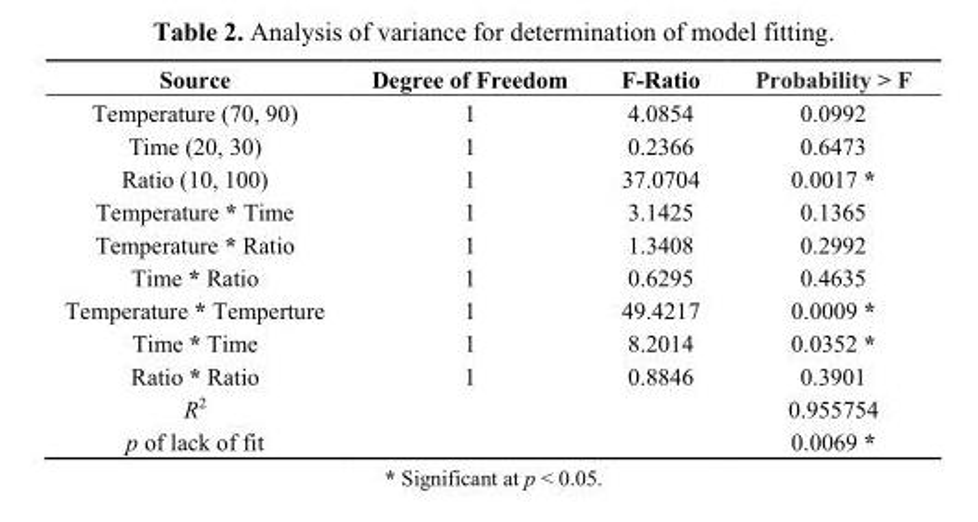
<table><thead><tr><td>Source</td><td>Degree of Freedom</td><td>F-Ratio</td><td>Probability &gt; F</td></tr></thead><tbody><tr><td>Temperature (70, 90)</td><td>1</td><td>4.0854</td><td>0.0992</td></tr><tr><td>Time (20, 30)</td><td>1</td><td>0.2366</td><td>0.6473</td></tr><tr><td>Ratio (10, 100)</td><td>1</td><td>37.0704</td><td>0.0017 *</td></tr><tr><td>Temperature * Time</td><td>1</td><td>3.1425</td><td>0.1365</td></tr><tr><td>Temperature * Ratio</td><td>1</td><td>1.3408</td><td>0.2992</td></tr><tr><td>Time * Ratio</td><td>1</td><td>0.6295</td><td>0.4635</td></tr><tr><td>Temperature * Temperture</td><td>1</td><td>49.4217</td><td>0.0009 *</td></tr><tr><td>Time * Time</td><td>1</td><td>8.2014</td><td>0.0352 *</td></tr><tr><td>Ratio * Ratio</td><td>1</td><td>0.8846</td><td>0.3901</td></tr><tr><td>R<sup>2</sup></td><td></td><td></td><td>0.955754</td></tr><tr><td>p of lack of fit</td><td></td><td></td><td>0.0069 *</td></tr></tbody></table>